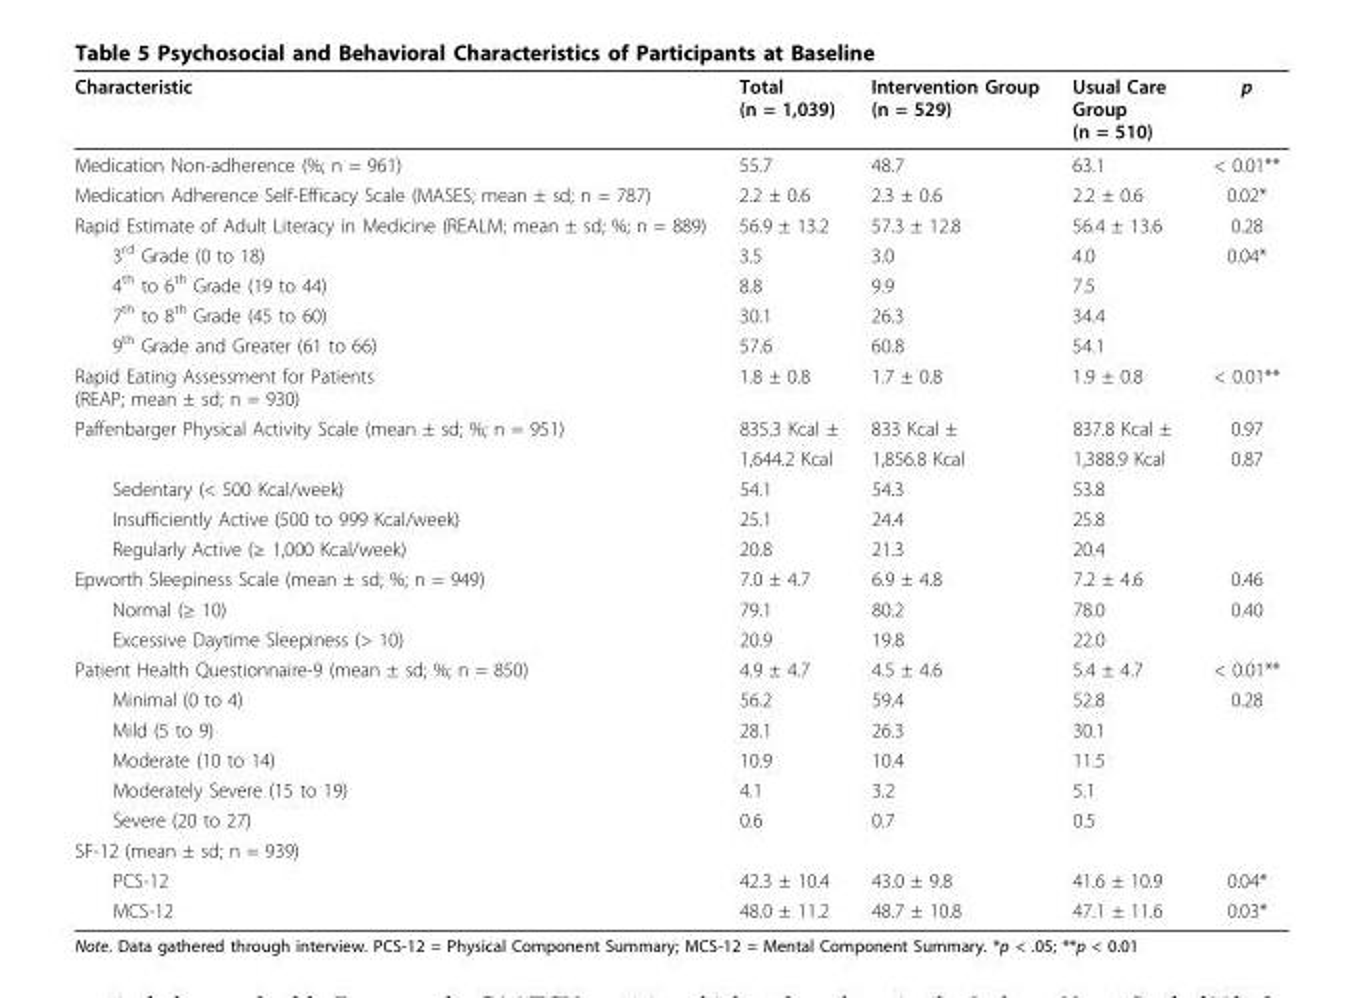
<table><thead><tr><td>Characteristic</td><td>Total (n = 1,039)</td><td>Intervention Group (n = 529)</td><td>Usual Care Group (n = 510)</td><td>p</td></tr></thead><tbody><tr><td>Medication Non-adherence (%; n = 961)</td><td>55.7</td><td>48.7</td><td>63.1</td><td>&lt; 0.01**</td></tr><tr><td>Medication Adherence Self-Efficacy Scale (MASES; mean ± sd; n = 787)</td><td>2.2 ± 0.6</td><td>2.3 ± 0.6</td><td>2.2 ± 0.6</td><td>0.02*</td></tr><tr><td>Rapid Estimate of Adult Literacy in Medicine (REALM; mean ± sd; %; n = 889)</td><td>56.9 ± 13.2</td><td>57.3 ± 12.8</td><td>56.4 ± 13.6</td><td>0.28</td></tr><tr><td>3<sup>rd</sup> Grade (0 to 18)</td><td>3.5</td><td>3.0</td><td>4.0</td><td>0.04*</td></tr><tr><td>4<sup>th</sup> to 6<sup>th</sup> Grade (19 to 44)</td><td>8.8</td><td>9.9</td><td>7.5</td><td></td></tr><tr><td>7<sup>th</sup> to 8<sup>th</sup> Grade (45 to 60)</td><td>30.1</td><td>26.3</td><td>34.4</td><td></td></tr><tr><td>9<sup>th</sup> Grade and Greater (61 to 66)</td><td>57.6</td><td>60.8</td><td>54.1</td><td></td></tr><tr><td>Rapid Eating Assessment for Patients (REAP; mean ± sd; n = 930)</td><td>1.8 ± 0.8</td><td>1.7 ± 0.8</td><td>1.9 ± 0.8</td><td>&lt; 0.01**</td></tr><tr><td rowspan="2">Paffenbarger Physical Activity Scale (mean ± sd; %; n = 951)</td><td>835.3 Kcal ±</td><td>833 Kcal ±</td><td>837.8 Kcal ±</td><td>0.97</td></tr><tr><td>1,644.2 Kcal</td><td>1,856.8 Kcal</td><td>1,388.9 Kcal</td><td>0.87</td></tr><tr><td>Sedentary (&lt; 500 Kcal/week)</td><td>54.1</td><td>54.3</td><td>53.8</td><td></td></tr><tr><td>Insufficiently Active (500 to 999 Kcal/week)</td><td>25.1</td><td>24.4</td><td>25.8</td><td></td></tr><tr><td>Regularly Active (≥ 1,000 Kcal/week)</td><td>20.8</td><td>21.3</td><td>20.4</td><td></td></tr><tr><td>Epworth Sleepiness Scale (mean ± sd; %; n = 949)</td><td>7.0 ± 4.7</td><td>6.9 ± 4.8</td><td>7.2 ± 4.6</td><td>0.46</td></tr><tr><td>Normal (≥ 10)</td><td>79.1</td><td>80.2</td><td>78.0</td><td>0.40</td></tr><tr><td>Excessive Daytime Sleepiness (&gt; 10)</td><td>20.9</td><td>19.8</td><td>22.0</td><td></td></tr><tr><td>Patient Health Questionnaire-9 (mean ± sd; %; n = 850)</td><td>4.9 ± 4.7</td><td>4.5 ± 4.6</td><td>5.4 ± 4.7</td><td>&lt; 0.01**</td></tr><tr><td>Minimal (0 to 4)</td><td>56.2</td><td>59.4</td><td>52.8</td><td>0.28</td></tr><tr><td>Mild (5 to 9)</td><td>28.1</td><td>26.3</td><td>30.1</td><td></td></tr><tr><td>Moderate (10 to 14)</td><td>10.9</td><td>10.4</td><td>11.5</td><td></td></tr><tr><td>Moderately Severe (15 to 19)</td><td>4.1</td><td>3.2</td><td>5.1</td><td></td></tr><tr><td>Severe (20 to 27)</td><td>0.6</td><td>0.7</td><td>0.5</td><td></td></tr><tr><td colspan="5">SF-12 (mean ± sd; n = 939)</td></tr><tr><td>PCS-12</td><td>42.3 ± 10.4</td><td>43.0 ± 9.8</td><td>41.6 ± 10.9</td><td>0.04*</td></tr><tr><td>MCS-12</td><td>48.0 ± 11.2</td><td>48.7 ± 10.8</td><td>47.1 ± 11.6</td><td>0.03*</td></tr></tbody></table>